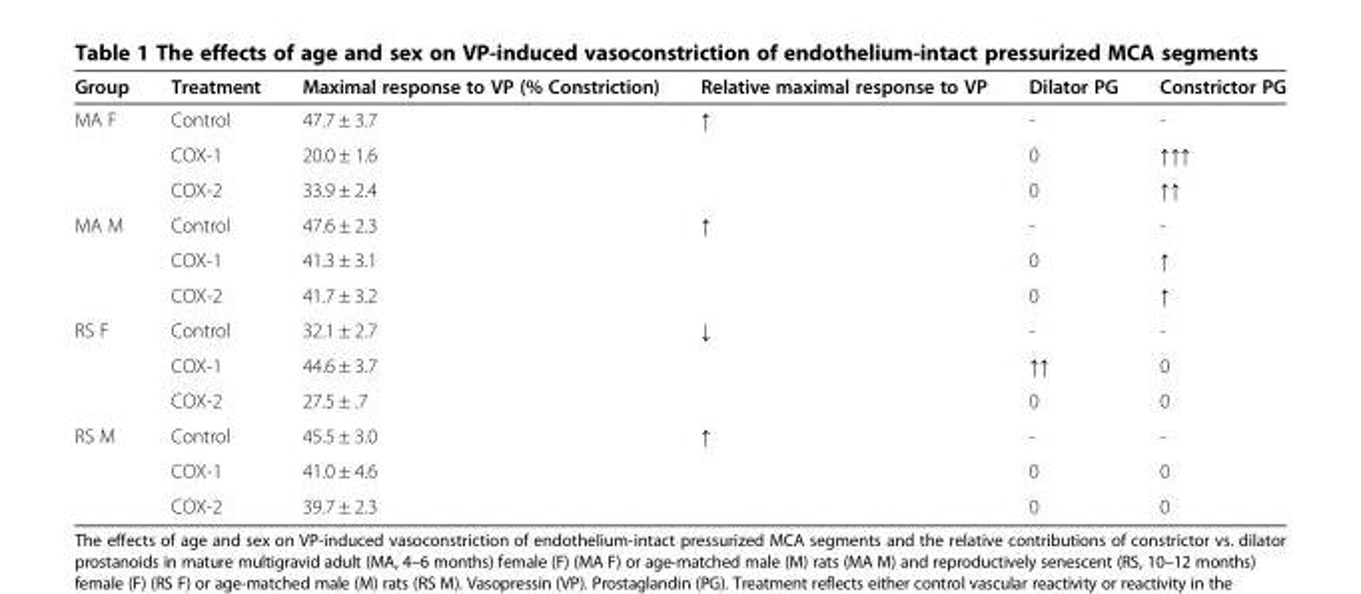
<table><thead><tr><td>Group</td><td>Treatment</td><td>Maximal response to VP (% Constriction)</td><td>Relative maximal response to VP</td><td>Dilator PG</td><td>Constrictor PG</td></tr></thead><tbody><tr><td rowspan="3">MA F</td><td>Control</td><td>47.7 ± 3.7</td><td>↑</td><td>-</td><td>-</td></tr><tr><td>COX-1</td><td>20.0 ± 1.6</td><td></td><td>0</td><td>↑↑↑</td></tr><tr><td>COX-2</td><td>33.9 ± 2.4</td><td></td><td>0</td><td>↑↑</td></tr><tr><td rowspan="3">MA M</td><td>Control</td><td>47.6 ± 2.3</td><td>↑</td><td>-</td><td>-</td></tr><tr><td>COX-1</td><td>41.3 ± 3.1</td><td></td><td>0</td><td>↑</td></tr><tr><td>COX-2</td><td>41.7 ± 3.2</td><td></td><td>0</td><td>↑</td></tr><tr><td rowspan="3">RS F</td><td>Control</td><td>32.1 ± 2.7</td><td>↓</td><td>-</td><td>-</td></tr><tr><td>COX-1</td><td>44.6 ± 3.7</td><td></td><td>↑↑</td><td>0</td></tr><tr><td>COX-2</td><td>27.5 ± .7</td><td></td><td>0</td><td>0</td></tr><tr><td rowspan="3">RS M</td><td>Control</td><td>45.5 ± 3.0</td><td>↑</td><td>-</td><td>-</td></tr><tr><td>COX-1</td><td>41.0 ± 4.6</td><td></td><td>0</td><td>0</td></tr><tr><td>COX-2</td><td>39.7 ± 2.3</td><td></td><td>0</td><td>0</td></tr></tbody></table>